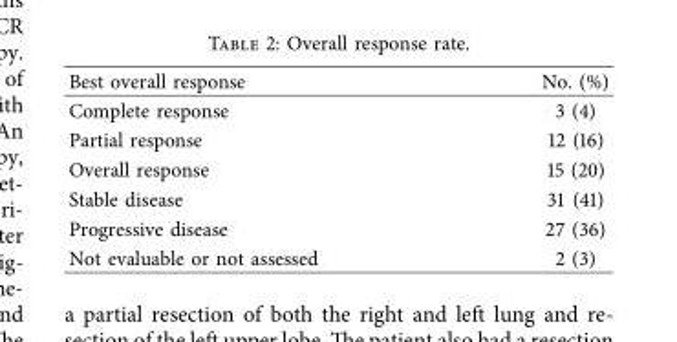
<table><thead><tr><td>Best overall response</td><td>No. (%)</td></tr></thead><tbody><tr><td>Complete response</td><td>3 (4)</td></tr><tr><td>Partial response</td><td>12 (16)</td></tr><tr><td>Overall response</td><td>15 (20)</td></tr><tr><td>Stable disease</td><td>31 (41)</td></tr><tr><td>Progressive disease</td><td>27 (36)</td></tr><tr><td>Not evaluable or not assessed</td><td>2 (3)</td></tr></tbody></table>